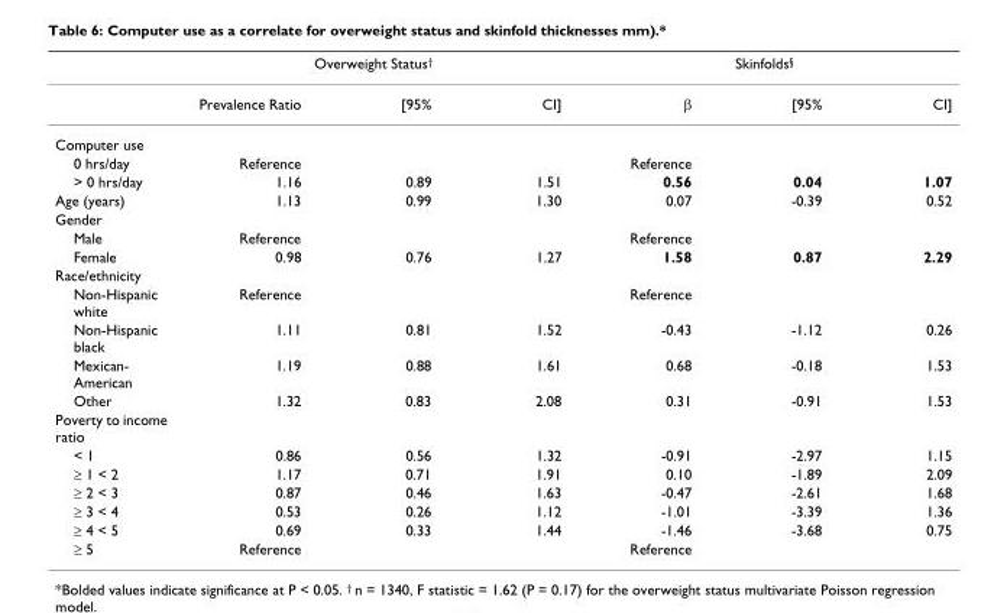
<table><thead><tr><td rowspan="2"></td><td colspan="3">Overweight Status<sup>†</sup></td><td colspan="3">Skinfolds§</td></tr><tr><td>Prevalence Ratio</td><td>[95%</td><td>CI]</td><td>β</td><td>[95%</td><td>CI]</td></tr></thead><tbody><tr><td colspan="7">Computer use</td></tr><tr><td>0 hrs/day</td><td>Reference</td><td></td><td></td><td>Reference</td><td></td><td></td></tr><tr><td>&gt; 0 hrs/day</td><td>1.16</td><td>0.89</td><td>1.51</td><td>0.56</td><td>0.04</td><td>1.07</td></tr><tr><td>Age (years)</td><td>1.13</td><td>0.99</td><td>1.30</td><td>0.07</td><td>-0.39</td><td>0.52</td></tr><tr><td colspan="7">Gender</td></tr><tr><td>Male</td><td>Reference</td><td></td><td></td><td>Reference</td><td></td><td></td></tr><tr><td>Female</td><td>0.98</td><td>0.76</td><td>1.27</td><td>1.58</td><td>0.87</td><td>2.29</td></tr><tr><td colspan="7">Race/ethnicity</td></tr><tr><td>Non-Hispanic white</td><td>Reference</td><td></td><td></td><td>Reference</td><td></td><td></td></tr><tr><td>Non-Hispanic black</td><td>1.11</td><td>0.81</td><td>1.52</td><td>-0.43</td><td>-1.12</td><td>0.26</td></tr><tr><td>Mexican- American</td><td>1.19</td><td>0.88</td><td>1.61</td><td>0.68</td><td>-0.18</td><td>1.53</td></tr><tr><td>Other</td><td>1.32</td><td>0.83</td><td>2.08</td><td>0.31</td><td>-0.91</td><td>1.53</td></tr><tr><td colspan="7">Poverty to income ratio</td></tr><tr><td>&lt; 1</td><td>0.86</td><td>0.56</td><td>1.32</td><td>-0.91</td><td>-2.97</td><td>1.15</td></tr><tr><td>≥ 1 &lt; 2</td><td>1.17</td><td>0.71</td><td>1.91</td><td>0.10</td><td>-1.89</td><td>2.09</td></tr><tr><td>≥ 2 &lt; 3</td><td>0.87</td><td>0.46</td><td>1.63</td><td>-0.47</td><td>-2.61</td><td>1.68</td></tr><tr><td>≥ 3 &lt; 4</td><td>0.53</td><td>0.26</td><td>1.12</td><td>-1.01</td><td>-3.39</td><td>1.36</td></tr><tr><td>≥ 4 &lt; 5</td><td>0.69</td><td>0.33</td><td>1.44</td><td>-1.46</td><td>-3.68</td><td>0.75</td></tr><tr><td>≥ 5</td><td>Reference</td><td></td><td></td><td>Reference</td><td></td><td></td></tr></tbody></table>